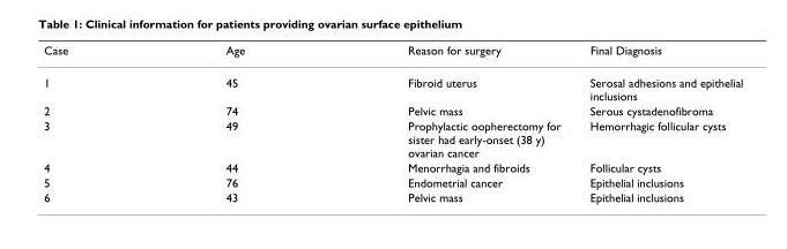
<table><thead><tr><td>Case</td><td>Age</td><td>Reason for surgery</td><td>Final Diagnosis</td></tr></thead><tbody><tr><td>1</td><td>45</td><td>Fibroid uterus</td><td>Serosal adhesions and epithelial inclusions</td></tr><tr><td>2</td><td>74</td><td>Pelvic mass</td><td>Serous cystadenofibroma</td></tr><tr><td>3</td><td>49</td><td>Prophylactic oopherectomy for sister had early-onset (38 y) ovarian cancer</td><td>Hemorrhagic follicular cysts</td></tr><tr><td>4</td><td>44</td><td>Menorrhagia and fibroids</td><td>Follicular cysts</td></tr><tr><td>5</td><td>76</td><td>Endometrial cancer</td><td>Epithelial inclusions</td></tr><tr><td>6</td><td>43</td><td>Pelvic mass</td><td>Epithelial inclusions</td></tr></tbody></table>